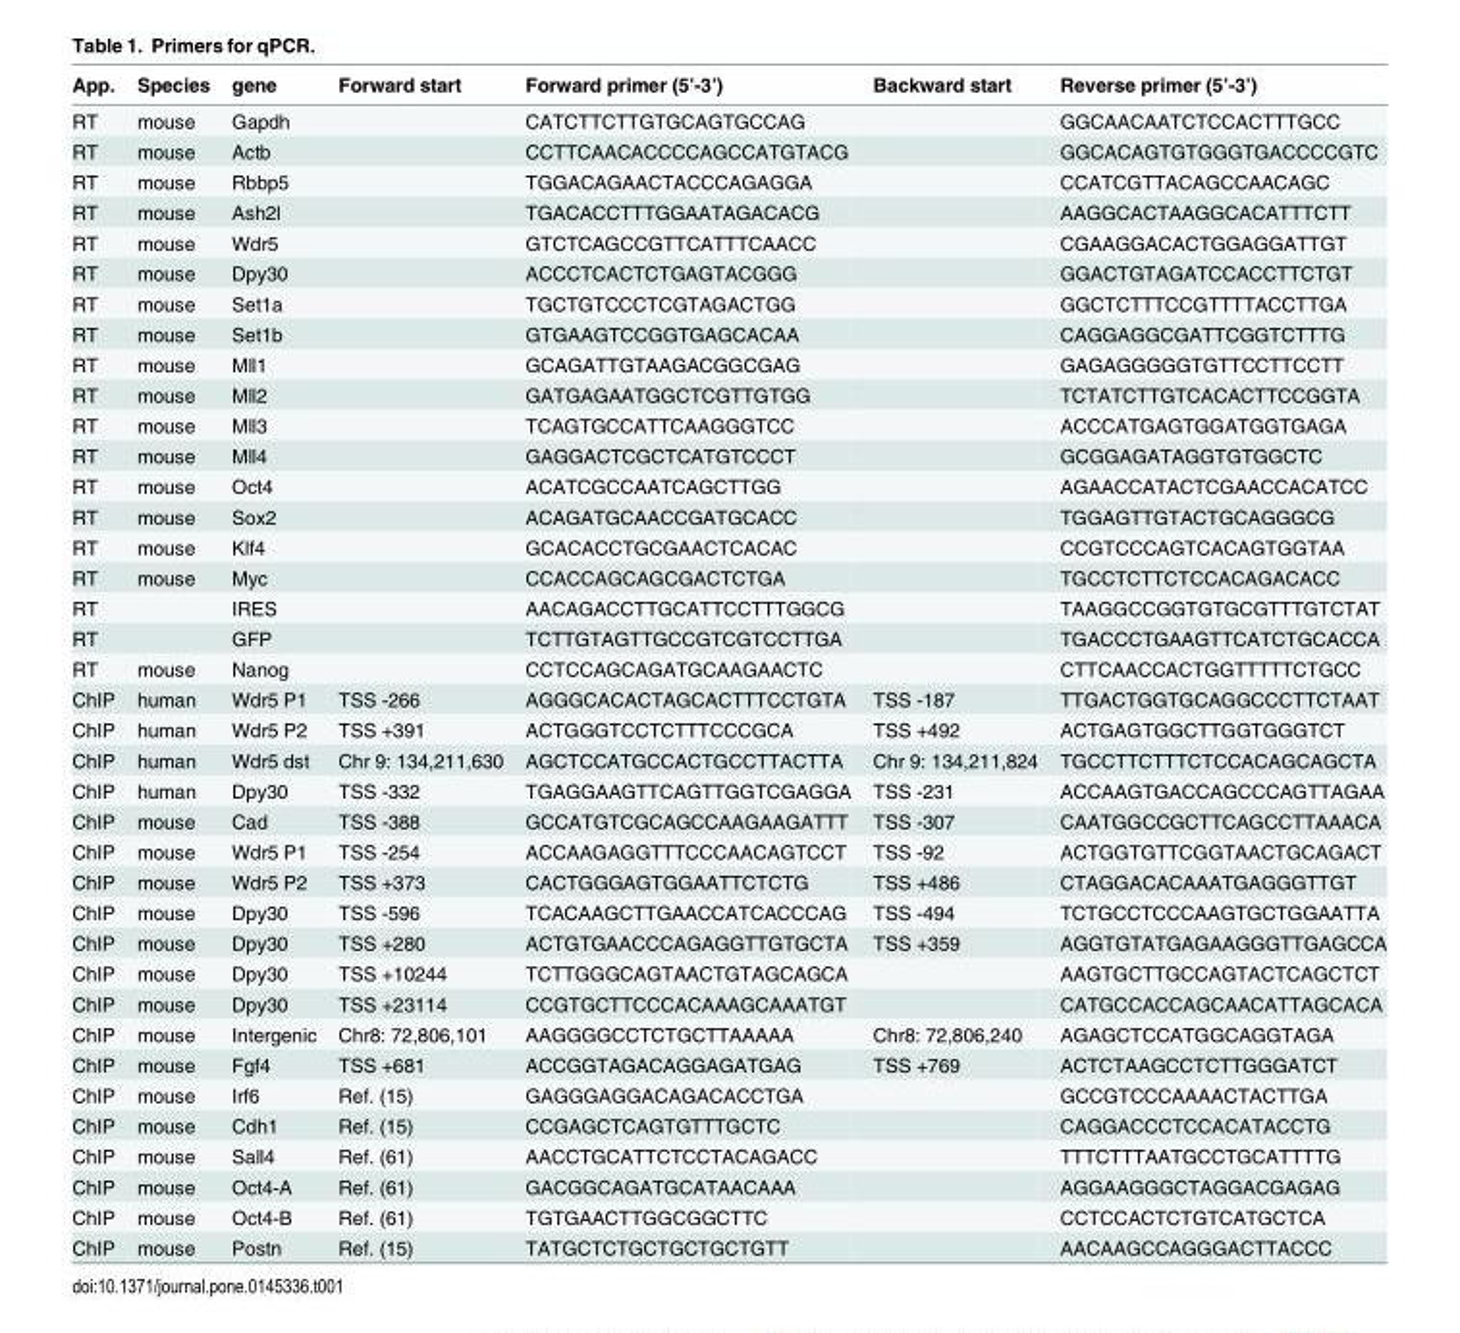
<table><thead><tr><td>App.</td><td>Species</td><td>gene</td><td>Forward start</td><td>Forward primer (5’-3’)</td><td>Backward start</td><td>Reverse primer (5’-3’)</td></tr></thead><tbody><tr><td>RT</td><td>mouse</td><td>Gapdh</td><td></td><td>CATCTTCTTGTGCAGTGCCAG</td><td></td><td>GGCAACAATCTCCACTTTGCC</td></tr><tr><td>RT</td><td>mouse</td><td>Actb</td><td></td><td>CCTTCAACACCCCAGCCATGTACG</td><td></td><td>GGCACAGTGTGGGTGACCCCGTC</td></tr><tr><td>RT</td><td>mouse</td><td>Rbbp5</td><td></td><td>TGGACAGAACTACCCAGAGGA</td><td></td><td>CCATCGTTACAGCCAACAGC</td></tr><tr><td>RT</td><td>mouse</td><td>Ash2l</td><td></td><td>TGACACCTTTGGAATAGACACG</td><td></td><td>AAGGCACTAAGGCACATTTCTT</td></tr><tr><td>RT</td><td>mouse</td><td>Wdr5</td><td></td><td>GTCTCAGCCGTTCATTTCAACC</td><td></td><td>CGAAGGACACTGGAGGATTGT</td></tr><tr><td>RT</td><td>mouse</td><td>Dpy30</td><td></td><td>ACCCTCACTCTGAGTACGGG</td><td></td><td>GGACTGTAGATCCACCTTCTGT</td></tr><tr><td>RT</td><td>mouse</td><td>Set1a</td><td></td><td>TGCTGTCCCTCGTAGACTGG</td><td></td><td>GGCTCTTTCCGTTTTACCTTGA</td></tr><tr><td>RT</td><td>mouse</td><td>Set1b</td><td></td><td>GTGAAGTCCGGTGAGCACAA</td><td></td><td>CAGGAGGCGATTCGGTCTTTG</td></tr><tr><td>RT</td><td>mouse</td><td>Mll1</td><td></td><td>GCAGATTGTAAGACGGCGAG</td><td></td><td>GAGAGGGGGTGTTCCTTCCTT</td></tr><tr><td>RT</td><td>mouse</td><td>Mll2</td><td></td><td>GATGAGAATGGCTCGTTGTGG</td><td></td><td>TCTATCTTGTCACACTTCCGGTA</td></tr><tr><td>RT</td><td>mouse</td><td>Mll3</td><td></td><td>TCAGTGCCATTCAAGGGTCC</td><td></td><td>ACCCATGAGTGGATGGTGAGA</td></tr><tr><td>RT</td><td>mouse</td><td>Mll4</td><td></td><td>GAGGACTCGCTCATGTCCCT</td><td></td><td>GCGGAGATAGGTGTGGCTC</td></tr><tr><td>RT</td><td>mouse</td><td>Oct4</td><td></td><td>ACATCGCCAATCAGCTTGG</td><td></td><td>AGAACCATACTCGAACCACATCC</td></tr><tr><td>RT</td><td>mouse</td><td>Sox2</td><td></td><td>ACAGATGCAACCGATGCACC</td><td></td><td>TGGAGTTGTACTGCAGGGCG</td></tr><tr><td>RT</td><td>mouse</td><td>Klf4</td><td></td><td>GCACACCTGCGAACTCACAC</td><td></td><td>CCGTCCCAGTCACAGTGGTAA</td></tr><tr><td>RT</td><td>mouse</td><td>Myc</td><td></td><td>CCACCAGCAGCGACTCTGA</td><td></td><td>TGCCTCTTCTCCACAGACACC</td></tr><tr><td>RT</td><td></td><td>IRES</td><td></td><td>AACAGACCTTGCATTCCTTTGGCG</td><td></td><td>TAAGGCCGGTGTGCGTTTGTCTAT</td></tr><tr><td>RT</td><td></td><td>GFP</td><td></td><td>TCTTGTAGTTGCCGTCGTCCTTGA</td><td></td><td>TGACCCTGAAGTTCATCTGCACCA</td></tr><tr><td>RT</td><td>mouse</td><td>Nanog</td><td></td><td>CCTCCAGCAGATGCAAGAACTC</td><td></td><td>CTTCAACCACTGGTTTTTCTGCC</td></tr><tr><td>ChIP</td><td>human</td><td>Wdr5 P1</td><td>TSS -266</td><td>AGGGCACACTAGCACTTTCCTGTA</td><td>TSS -187</td><td>TTGACTGGTGCAGGCCCTTCTAAT</td></tr><tr><td>ChIP</td><td>human</td><td>Wdr5 P2</td><td>TSS +391</td><td>ACTGGGTCCTCTTTCCCGCA</td><td>TSS +492</td><td>ACTGAGTGGCTTGGTGGGTCT</td></tr><tr><td>ChIP</td><td>human</td><td>Wdr5 dst</td><td>Chr 9: 134,211,630</td><td>AGCTCCATGCCACTGCCTTACTTA</td><td>Chr 9: 134,211,824</td><td>TGCCTTCTTTCTCCACAGCAGCTA</td></tr><tr><td>ChIP</td><td>human</td><td>Dpy30</td><td>TSS -332</td><td>TGAGGAAGTTCAGTTGGTCGAGGA</td><td>TSS -231</td><td>ACCAAGTGACCAGCCCAGTTAGAA</td></tr><tr><td>ChIP</td><td>mouse</td><td>Cad</td><td>TSS -388</td><td>GCCATGTCGCAGCCAAGAAGATTT</td><td>TSS -307</td><td>CAATGGCCGCTTCAGCCTTAAACA</td></tr><tr><td>ChIP</td><td>mouse</td><td>Wdr5 P1</td><td>TSS -254</td><td>ACCAAGAGGTTTCCCAACAGTCCT</td><td>TSS -92</td><td>ACTGGTGTTCGGTAACTGCAGACT</td></tr><tr><td>ChIP</td><td>mouse</td><td>Wdr5 P2</td><td>TSS +373</td><td>CACTGGGAGTGGAATTCTCTG</td><td>TSS +486</td><td>CTAGGACACAAATGAGGGTTGT</td></tr><tr><td>ChIP</td><td>mouse</td><td>Dpy30</td><td>TSS -596</td><td>TCACAAGCTTGAACCATCACCCAG</td><td>TSS -494</td><td>TCTGCCTCCCAAGTGCTGGAATTA</td></tr><tr><td>ChIP</td><td>mouse</td><td>Dpy30</td><td>TSS +280</td><td>ACTGTGAACCCAGAGGTTGTGCTA</td><td>TSS +359</td><td>AGGTGTATGAGAAGGGTTGAGCCA</td></tr><tr><td>ChIP</td><td>mouse</td><td>Dpy30</td><td>TSS +10244</td><td>TCTTGGGCAGTAACTGTAGCAGCA</td><td></td><td>AAGTGCTTGCCAGTACTCAGCTCT</td></tr><tr><td>ChIP</td><td>mouse</td><td>Dpy30</td><td>TSS +23114</td><td>CCGTGCTTCCCACAAAGCAAATGT</td><td></td><td>CATGCCACCAGCAACATTAGCACA</td></tr><tr><td>ChIP</td><td>mouse</td><td>Intergenic</td><td>Chr8: 72,806,101</td><td>AAGGGGCCTCTGCTTAAAAA</td><td>Chr8: 72,806,240</td><td>AGAGCTCCATGGCAGGTAGA</td></tr><tr><td>ChIP</td><td>mouse</td><td>Fgf4</td><td>TSS +681</td><td>ACCGGTAGACAGGAGATGAG</td><td>TSS +769</td><td>ACTCTAAGCCTCTTGGGATCT</td></tr><tr><td>ChIP</td><td>mouse</td><td>Irf6</td><td>Ref. (15)</td><td>GAGGGAGGACAGACACCTGA</td><td></td><td>GCCGTCCCAAAACTACTTGA</td></tr><tr><td>ChIP</td><td>mouse</td><td>Cdh1</td><td>Ref. (15)</td><td>CCGAGCTCAGTGTTTGCTC</td><td></td><td>CAGGACCCTCCACATACCTG</td></tr><tr><td>ChIP</td><td>mouse</td><td>Sall4</td><td>Ref. (61)</td><td>AACCTGCATTCTCCTACAGACC</td><td></td><td>TTTCTTTAATGCCTGCATTTTG</td></tr><tr><td>ChIP</td><td>mouse</td><td>Oct4-A</td><td>Ref. (61)</td><td>GACGGCAGATGCATAACAAA</td><td></td><td>AGGAAGGGCTAGGACGAGAG</td></tr><tr><td>ChIP</td><td>mouse</td><td>Oct4-B</td><td>Ref. (61)</td><td>TGTGAACTTGGCGGCTTC</td><td></td><td>CCTCCACTCTGTCATGCTCA</td></tr><tr><td>ChIP</td><td>mouse</td><td>Postn</td><td>Ref. (15)</td><td>TATGCTCTGCTGCTGCTGTT</td><td></td><td>AACAAGCCAGGGACTTACCC</td></tr></tbody></table>